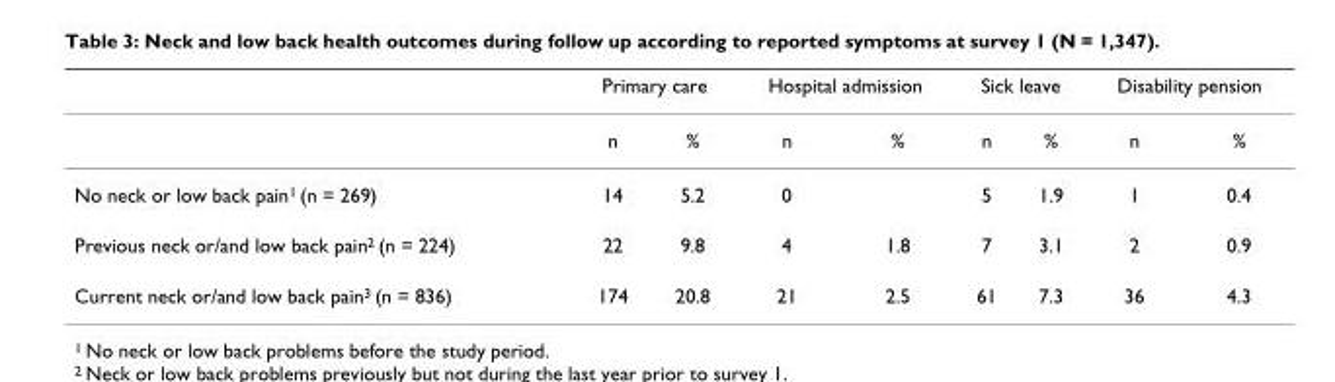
<table><thead><tr><td rowspan="2"></td><td colspan="2">Primary care</td><td colspan="2">Hospital admission</td><td colspan="2">Sick leave</td><td colspan="2">Disability pension</td></tr><tr><td>n</td><td>%</td><td>n</td><td>%</td><td>n</td><td>%</td><td>n</td><td>%</td></tr></thead><tbody><tr><td>No neck or low back pain1 (n = 269)</td><td>14</td><td>5.2</td><td>0</td><td></td><td>5</td><td>1.9</td><td>1</td><td>0.4</td></tr><tr><td>Previous neck or/and low back pain2 (n = 224)</td><td>22</td><td>9.8</td><td>4</td><td>1.8</td><td>7</td><td>3.1</td><td>2</td><td>0.9</td></tr><tr><td>Current neck or/and low back pain3 (n = 836)</td><td>174</td><td>20.8</td><td>21</td><td>2.5</td><td>61</td><td>7.3</td><td>36</td><td>4.3</td></tr></tbody></table>